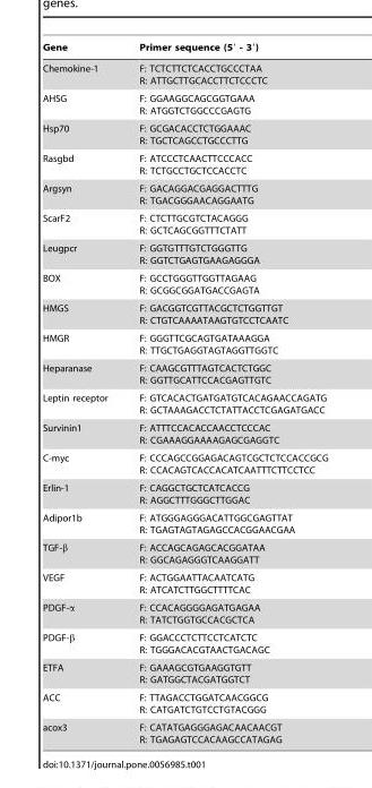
<table><thead><tr><td>Gene</td><td>Primer sequence (5′ - 3′)</td></tr></thead><tbody><tr><td>Chemokine-1</td><td>F: TCTCTTCTCACCTGCCCTAA R: ATTGCTTGCACCTTCTCCCTC</td></tr><tr><td>AHSG</td><td>F: GGAAGGCAGCGGTGAAA R: ATGGTCTGGCCCGAGTG</td></tr><tr><td>Hsp70</td><td>F: GCGACACCTCTGGAAAC R: TGCTCAGCCTGCCCTTG</td></tr><tr><td>Rasgbd</td><td>F: ATCCCTCAACTTCCCACC R: TCTGCCTGCTCCACCTC</td></tr><tr><td>Argsyn</td><td>F: GACAGGACGAGGACTTTG R: TGACGGGAACAGGAATG</td></tr><tr><td>ScarF2</td><td>F: CTCTTGCGTCTACAGGG R: GCTCAGCGGTTTCTATT</td></tr><tr><td>Leugpcr</td><td>F: GGTGTTTGTCTGGGTTG R: GGTCTGAGTGAAGAGGGA</td></tr><tr><td>BOX</td><td>F: GCCTGGGTTGGTTAGAAG R: GCGGCGGATGACCGAGTA</td></tr><tr><td>HMGS</td><td>F: GACGGTCGTTACGCTCTGGTTGT R: CTGTCAAAATAAGTGTCCTCAATC</td></tr><tr><td>HMGR</td><td>F: GGGTTCGCAGTGATAAAGGA R: TTGCTGAGGTAGTAGGTTGGTC</td></tr><tr><td>Heparanase</td><td>F: CAAGCGTTTAGTCACTCTGGC R: GGTTGCATTCCACGAGTTGTC</td></tr><tr><td>Leptin receptor</td><td>F: GTCACACTGATGATGTCACAGAACCAGATG R: GCTAAAGACCTCTATTACCTCGAGATGACC</td></tr><tr><td>Survinin1</td><td>F: ATTTCCACACCAACCTCCCAC R: CGAAAGGAAAAGAGCGAGGTC</td></tr><tr><td>C-myc</td><td>F: CCCAGCCGGAGACAGTCGCTCTCCACCGCG R: CCACAGTCACCACATCAATTTCTTCCTCC</td></tr><tr><td>Erlin-1</td><td>F: CAGGCTGCTCATCACCG R: AGGCTTTGGGCTTGGAC</td></tr><tr><td>Adipor1b</td><td>F: ATGGGAGGGACATTGGCGAGTTAT R: TGAGTAGTAGAGCCACGGAACGAA</td></tr><tr><td>TGF-β</td><td>F: ACCAGCAGAGCACGGATAA R: GGCAGAGGGTCAAGGATT</td></tr><tr><td>VEGF</td><td>F: ACTGGAATTACAATCATG R: ATCATCTTGGCTTTTCAC</td></tr><tr><td>PDGF-α</td><td>F: CCACAGGGGAGATGAGAA R: TATCTGGTGCCACGCTCA</td></tr><tr><td>PDGF-β</td><td>F: GGACCCTCTTCCTCATCTC R: TGGGACACGTAACTGACAGC</td></tr><tr><td>ETFA</td><td>F: GAAAGCGTGAAGGTGTT R: GATGGCTACGATGGTCT</td></tr><tr><td>ACC</td><td>F: TTAGACCTGGATCAACGGCG R: CATGATCTGTCCTGTACGGG</td></tr><tr><td>acox3</td><td>F: CATATGAGGGAGACAACAACGT R: TGAGAGTCCACAAGCCATAGAG</td></tr></tbody></table>